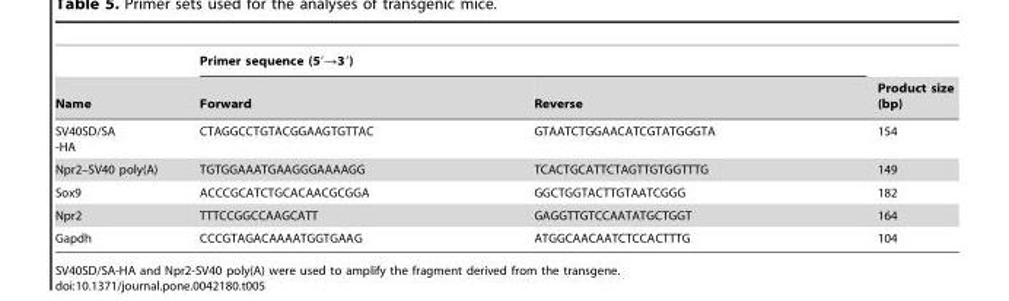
<table><thead><tr><td rowspan="2">Name</td><td colspan="2">Primer sequence (5′→3′)</td><td rowspan="2">Product size (bp)</td></tr><tr><td>Forward</td><td>Reverse</td></tr></thead><tbody><tr><td>SV40SD/SA -HA</td><td>CTAGGCCTGTACGGAAGTGTTAC</td><td>GTAATCTGGAACATCGTATGGGTA</td><td>154</td></tr><tr><td>Npr2–SV40 poly(A)</td><td>TGTGGAAATGAAGGGAAAAGG</td><td>TCACTGCATTCTAGTTGTGGTTTG</td><td>149</td></tr><tr><td>Sox9</td><td>ACCCGCATCTGCACAACGCGGA</td><td>GGCTGGTACTTGTAATCGGG</td><td>182</td></tr><tr><td>Npr2</td><td>TTTCCGGCCAAGCATT</td><td>GAGGTTGTCCAATATGCTGGT</td><td>164</td></tr><tr><td>Gapdh</td><td>CCCGTAGACAAAATGGTGAAG</td><td>ATGGCAACAATCTCCACTTTG</td><td>104</td></tr></tbody></table>